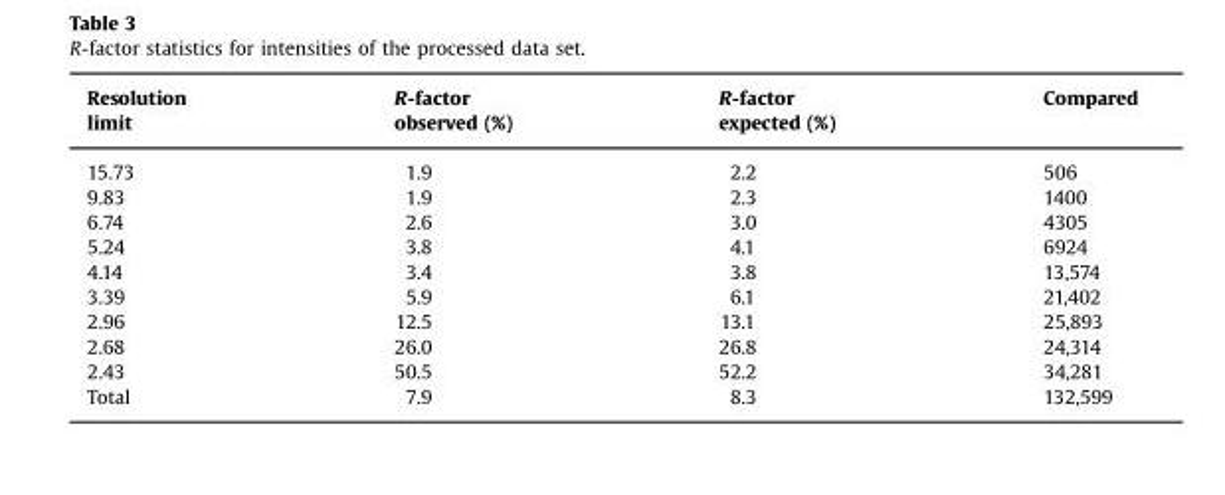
<table><thead><tr><td rowspan="2">Resolution limit</td><td rowspan="2">R-factor observed (%)</td><td rowspan="2">R-factor expected (%)</td><td rowspan="2">Compared</td></tr><tr></tr></thead><tbody><tr><td>15.73</td><td>1.9</td><td>2.2</td><td>506</td></tr><tr><td>9.83</td><td>1.9</td><td>2.3</td><td>1400</td></tr><tr><td>6.74</td><td>2.6</td><td>3.0</td><td>4305</td></tr><tr><td>5.24</td><td>3.8</td><td>4.1</td><td>6924</td></tr><tr><td>4.14</td><td>3.4</td><td>3.8</td><td>13,574</td></tr><tr><td>3.39</td><td>5.9</td><td>6.1</td><td>21,402</td></tr><tr><td>2.96</td><td>12.5</td><td>13.1</td><td>25,893</td></tr><tr><td>2.68</td><td>26.0</td><td>26.8</td><td>24,314</td></tr><tr><td>2.43</td><td>50.5</td><td>52.2</td><td>34,281</td></tr><tr><td>Total</td><td>7.9</td><td>8.3</td><td>132,599</td></tr></tbody></table>